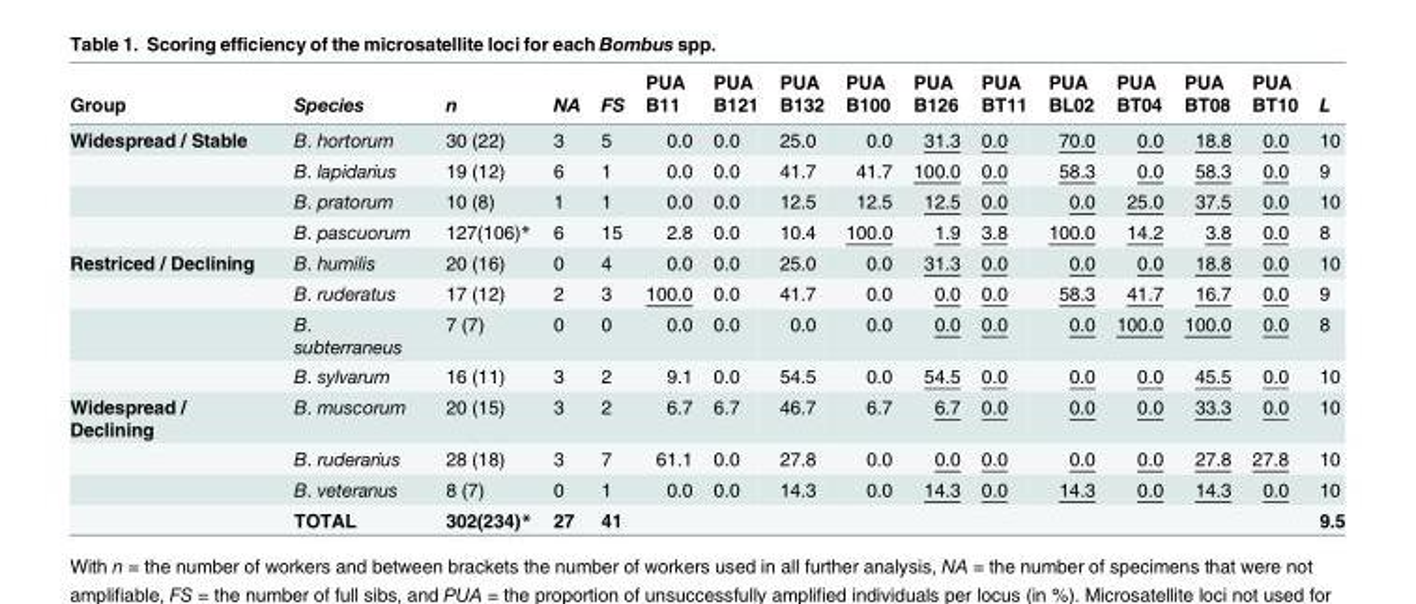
<table><thead><tr><td rowspan="2">Group</td><td rowspan="2">Species</td><td rowspan="2">n</td><td rowspan="2">NA</td><td rowspan="2">FS</td><td rowspan="2">PUA B11</td><td rowspan="2">PUA B121</td><td rowspan="2">PUA B132</td><td rowspan="2">PUA B100</td><td rowspan="2">PUA B126</td><td rowspan="2">PUA BT11</td><td rowspan="2">PUA BL02</td><td rowspan="2">PUA BT04</td><td rowspan="2">PUA BT08</td><td rowspan="2">PUA BT10</td><td rowspan="2">L</td></tr><tr></tr></thead><tbody><tr><td rowspan="4">Widespread / Stable</td><td>B. hortorum</td><td>30 (22)</td><td>3</td><td>5</td><td>0.0</td><td>0.0</td><td>25.0</td><td>0.0</td><td>31.3</td><td>0.0</td><td>70.0</td><td>0.0</td><td>18.8</td><td>0.0</td><td>10</td></tr><tr><td>B. lapidarius</td><td>19 (12)</td><td>6</td><td>1</td><td>0.0</td><td>0.0</td><td>41.7</td><td>41.7</td><td>100.0</td><td>0.0</td><td>58.3</td><td>0.0</td><td>58.3</td><td>0.0</td><td>9</td></tr><tr><td>B. pratorum</td><td>10 (8)</td><td>1</td><td>1</td><td>0.0</td><td>0.0</td><td>12.5</td><td>12.5</td><td>12.5</td><td>0.0</td><td>0.0</td><td>25.0</td><td>37.5</td><td>0.0</td><td>10</td></tr><tr><td>B. pascuorum</td><td>127(106)*</td><td>6</td><td>15</td><td>2.8</td><td>0.0</td><td>10.4</td><td>100.0</td><td>1.9</td><td>3.8</td><td>100.0</td><td>14.2</td><td>3.8</td><td>0.0</td><td>8</td></tr><tr><td rowspan="4">Restriced / Declining</td><td>B. humilis</td><td>20 (16)</td><td>0</td><td>4</td><td>0.0</td><td>0.0</td><td>25.0</td><td>0.0</td><td>31.3</td><td>0.0</td><td>0.0</td><td>0.0</td><td>18.8</td><td>0.0</td><td>10</td></tr><tr><td>B. ruderatus</td><td>17 (12)</td><td>2</td><td>3</td><td>100.0</td><td>0.0</td><td>41.7</td><td>0.0</td><td>0.0</td><td>0.0</td><td>58.3</td><td>41.7</td><td>16.7</td><td>0.0</td><td>9</td></tr><tr><td>B. subterraneus</td><td>7 (7)</td><td>0</td><td>0</td><td>0.0</td><td>0.0</td><td>0.0</td><td>0.0</td><td>0.0</td><td>0.0</td><td>0.0</td><td>100.0</td><td>100.0</td><td>0.0</td><td>8</td></tr><tr><td>B. sylvarum</td><td>16 (11)</td><td>3</td><td>2</td><td>9.1</td><td>0.0</td><td>54.5</td><td>0.0</td><td>54.5</td><td>0.0</td><td>0.0</td><td>0.0</td><td>45.5</td><td>0.0</td><td>10</td></tr><tr><td rowspan="4">Widespread / Declining</td><td>B. muscorum</td><td>20 (15)</td><td>3</td><td>2</td><td>6.7</td><td>6.7</td><td>46.7</td><td>6.7</td><td>6.7</td><td>0.0</td><td>0.0</td><td>0.0</td><td>33.3</td><td>0.0</td><td>10</td></tr><tr><td>B. ruderarius</td><td>28 (18)</td><td>3</td><td>7</td><td>61.1</td><td>0.0</td><td>27.8</td><td>0.0</td><td>0.0</td><td>0.0</td><td>0.0</td><td>0.0</td><td>27.8</td><td>27.8</td><td>10</td></tr><tr><td>B. veteranus</td><td>8 (7)</td><td>0</td><td>1</td><td>0.0</td><td>0.0</td><td>14.3</td><td>0.0</td><td>14.3</td><td>0.0</td><td>14.3</td><td>0.0</td><td>14.3</td><td>0.0</td><td>10</td></tr><tr><td>TOTAL</td><td>302(234)*</td><td>27</td><td>41</td><td></td><td></td><td></td><td></td><td></td><td></td><td></td><td></td><td></td><td></td><td>9.5</td></tr></tbody></table>